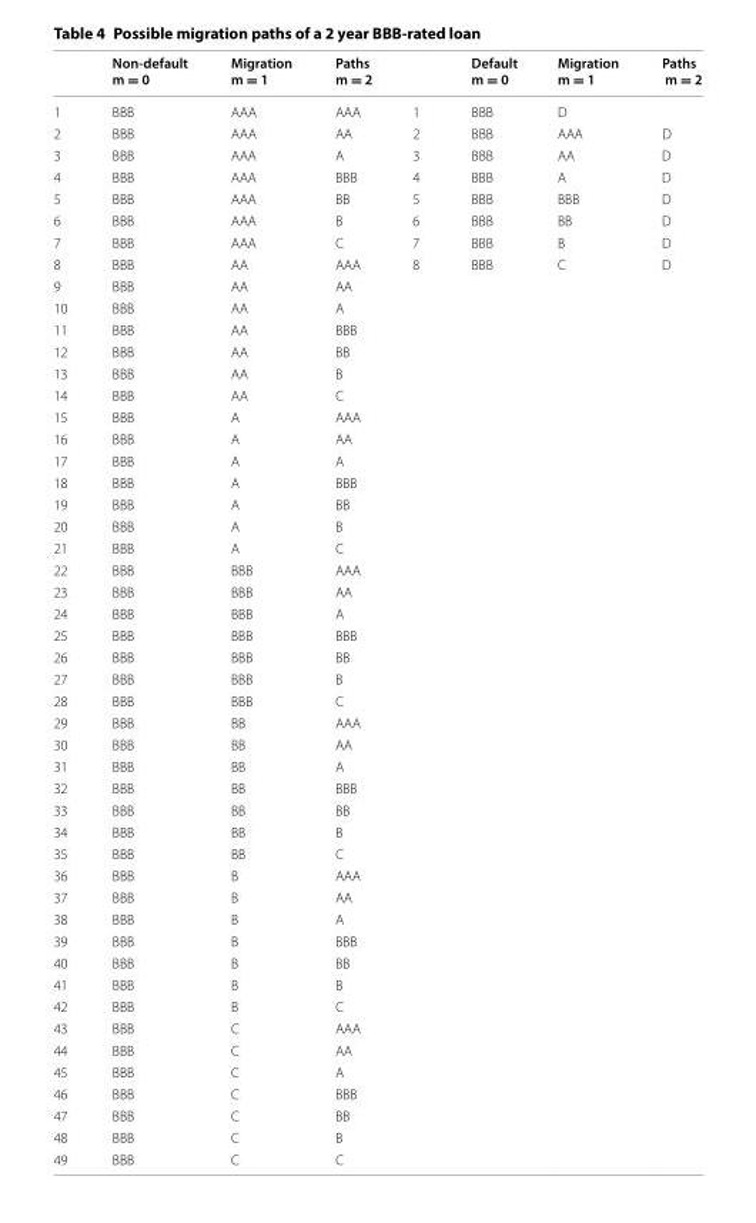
<table><thead><tr><td></td><td>Non-default m = 0</td><td>Migration m = 1</td><td>Paths m = 2</td><td></td><td>Default m = 0</td><td>Migration m = 1</td><td>Paths m = 2</td></tr></thead><tbody><tr><td>1</td><td>BBB</td><td>AAA</td><td>AAA</td><td>1</td><td>BBB</td><td>D</td><td></td></tr><tr><td>2</td><td>BBB</td><td>AAA</td><td>AA</td><td>2</td><td>BBB</td><td>AAA</td><td>D</td></tr><tr><td>3</td><td>BBB</td><td>AAA</td><td>A</td><td>3</td><td>BBB</td><td>AA</td><td>D</td></tr><tr><td>4</td><td>BBB</td><td>AAA</td><td>BBB</td><td>4</td><td>BBB</td><td>A</td><td>D</td></tr><tr><td>5</td><td>BBB</td><td>AAA</td><td>BB</td><td>5</td><td>BBB</td><td>BBB</td><td>D</td></tr><tr><td>6</td><td>BBB</td><td>AAA</td><td>B</td><td>6</td><td>BBB</td><td>BB</td><td>D</td></tr><tr><td>7</td><td>BBB</td><td>AAA</td><td>C</td><td>7</td><td>BBB</td><td>B</td><td>D</td></tr><tr><td>8</td><td>BBB</td><td>AA</td><td>AAA</td><td>8</td><td>BBB</td><td>C</td><td>D</td></tr><tr><td>9</td><td>BBB</td><td>AA</td><td>AA</td><td></td><td></td><td></td><td></td></tr><tr><td>10</td><td>BBB</td><td>AA</td><td>A</td><td></td><td></td><td></td><td></td></tr><tr><td>11</td><td>BBB</td><td>AA</td><td>BBB</td><td></td><td></td><td></td><td></td></tr><tr><td>12</td><td>BBB</td><td>AA</td><td>BB</td><td></td><td></td><td></td><td></td></tr><tr><td>13</td><td>BBB</td><td>AA</td><td>B</td><td></td><td></td><td></td><td></td></tr><tr><td>14</td><td>BBB</td><td>AA</td><td>C</td><td></td><td></td><td></td><td></td></tr><tr><td>15</td><td>BBB</td><td>A</td><td>AAA</td><td></td><td></td><td></td><td></td></tr><tr><td>16</td><td>BBB</td><td>A</td><td>AA</td><td></td><td></td><td></td><td></td></tr><tr><td>17</td><td>BBB</td><td>A</td><td>A</td><td></td><td></td><td></td><td></td></tr><tr><td>18</td><td>BBB</td><td>A</td><td>BBB</td><td></td><td></td><td></td><td></td></tr><tr><td>19</td><td>BBB</td><td>A</td><td>BB</td><td></td><td></td><td></td><td></td></tr><tr><td>20</td><td>BBB</td><td>A</td><td>B</td><td></td><td></td><td></td><td></td></tr><tr><td>21</td><td>BBB</td><td>A</td><td>C</td><td></td><td></td><td></td><td></td></tr><tr><td>22</td><td>BBB</td><td>BBB</td><td>AAA</td><td></td><td></td><td></td><td></td></tr><tr><td>23</td><td>BBB</td><td>BBB</td><td>AA</td><td></td><td></td><td></td><td></td></tr><tr><td>24</td><td>BBB</td><td>BBB</td><td>A</td><td></td><td></td><td></td><td></td></tr><tr><td>25</td><td>BBB</td><td>BBB</td><td>BBB</td><td></td><td></td><td></td><td></td></tr><tr><td>26</td><td>BBB</td><td>BBB</td><td>BB</td><td></td><td></td><td></td><td></td></tr><tr><td>27</td><td>BBB</td><td>BBB</td><td>B</td><td></td><td></td><td></td><td></td></tr><tr><td>28</td><td>BBB</td><td>BBB</td><td>C</td><td></td><td></td><td></td><td></td></tr><tr><td>29</td><td>BBB</td><td>BB</td><td>AAA</td><td></td><td></td><td></td><td></td></tr><tr><td>30</td><td>BBB</td><td>BB</td><td>AA</td><td></td><td></td><td></td><td></td></tr><tr><td>31</td><td>BBB</td><td>BB</td><td>A</td><td></td><td></td><td></td><td></td></tr><tr><td>32</td><td>BBB</td><td>BB</td><td>BBB</td><td></td><td></td><td></td><td></td></tr><tr><td>33</td><td>BBB</td><td>BB</td><td>BB</td><td></td><td></td><td></td><td></td></tr><tr><td>34</td><td>BBB</td><td>BB</td><td>B</td><td></td><td></td><td></td><td></td></tr><tr><td>35</td><td>BBB</td><td>BB</td><td>C</td><td></td><td></td><td></td><td></td></tr><tr><td>36</td><td>BBB</td><td>B</td><td>AAA</td><td></td><td></td><td></td><td></td></tr><tr><td>37</td><td>BBB</td><td>B</td><td>AA</td><td></td><td></td><td></td><td></td></tr><tr><td>38</td><td>BBB</td><td>B</td><td>A</td><td></td><td></td><td></td><td></td></tr><tr><td>39</td><td>BBB</td><td>B</td><td>BBB</td><td></td><td></td><td></td><td></td></tr><tr><td>40</td><td>BBB</td><td>B</td><td>BB</td><td></td><td></td><td></td><td></td></tr><tr><td>41</td><td>BBB</td><td>B</td><td>B</td><td></td><td></td><td></td><td></td></tr><tr><td>42</td><td>BBB</td><td>B</td><td>C</td><td></td><td></td><td></td><td></td></tr><tr><td>43</td><td>BBB</td><td>C</td><td>AAA</td><td></td><td></td><td></td><td></td></tr><tr><td>44</td><td>BBB</td><td>C</td><td>AA</td><td></td><td></td><td></td><td></td></tr><tr><td>45</td><td>BBB</td><td>C</td><td>A</td><td></td><td></td><td></td><td></td></tr><tr><td>46</td><td>BBB</td><td>C</td><td>BBB</td><td></td><td></td><td></td><td></td></tr><tr><td>47</td><td>BBB</td><td>C</td><td>BB</td><td></td><td></td><td></td><td></td></tr><tr><td>48</td><td>BBB</td><td>C</td><td>B</td><td></td><td></td><td></td><td></td></tr><tr><td>49</td><td>BBB</td><td>C</td><td>C</td><td></td><td></td><td></td><td></td></tr></tbody></table>